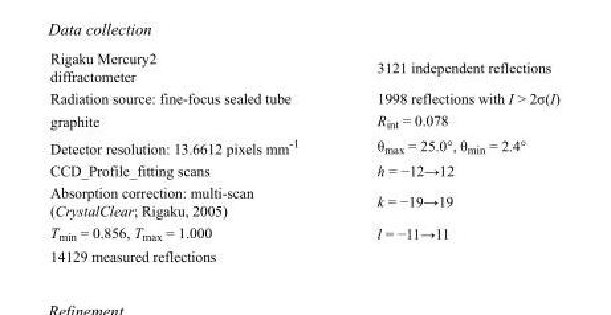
<table><tbody><tr><td>Rigaku Mercury2 diffractometer</td><td>3121 independent reflections</td></tr><tr><td>Radiation source: fine-focus sealed tube</td><td>1998 reflections with I &gt; 2σ(I)</td></tr><tr><td>graphite</td><td>R<sub>int</sub> = 0.078</td></tr><tr><td>Detector resolution: 13.6612 pixels mm<sup>-1</sup></td><td>θ<sub>max</sub> = 25.0°, θ<sub>min</sub> = 2.4°</td></tr><tr><td>CCD_Profile_fitting scans</td><td>h = −12→12</td></tr><tr><td>Absorption correction: multi-scan (CrystalClear; Rigaku, 2005)</td><td>k = −19→19</td></tr><tr><td>T<sub>min</sub> = 0.856, T<sub>max</sub> = 1.000</td><td>l = −11→11</td></tr><tr><td>14129 measured reflections</td><td></td></tr></tbody></table>